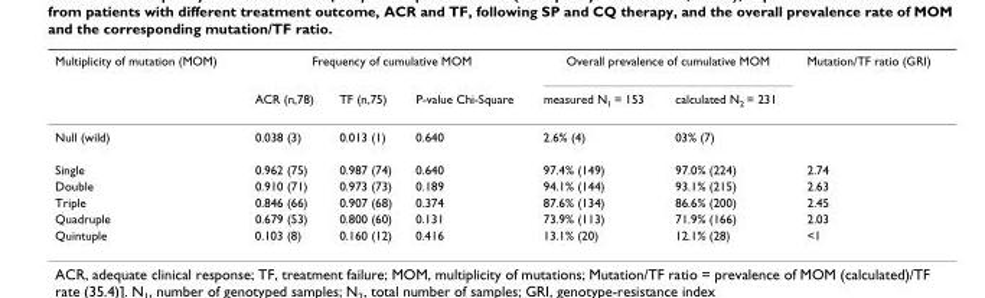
<table><thead><tr><td rowspan="2">Multiplicity of mutation (MOM)</td><td colspan="3">Frequency of cumulative MOM</td><td colspan="2">Overall prevalence of cumulative MOM</td><td rowspan="2">Mutation/TF ratio (GRI)</td></tr><tr><td>ACR (n,78)</td><td>TF (n,75)</td><td>P-value Chi-Square</td><td>measured N<sub>1</sub> = 153</td><td>calculated N<sub>2</sub> = 231</td></tr></thead><tbody><tr><td>Null (wild)</td><td>0.038 (3)</td><td>0.013 (1)</td><td>0.640</td><td>2.6% (4)</td><td>03% (7)</td><td></td></tr><tr><td>Single</td><td>0.962 (75)</td><td>0.987 (74)</td><td>0.640</td><td>97.4% (149)</td><td>97.0% (224)</td><td>2.74</td></tr><tr><td>Double</td><td>0.910 (71)</td><td>0.973 (73)</td><td>0.189</td><td>94.1% (144)</td><td>93.1% (215)</td><td>2.63</td></tr><tr><td>Triple</td><td>0.846 (66)</td><td>0.907 (68)</td><td>0.374</td><td>87.6% (134)</td><td>86.6% (200)</td><td>2.45</td></tr><tr><td>Quadruple</td><td>0.679 (53)</td><td>0.800 (60)</td><td>0.131</td><td>73.9% (113)</td><td>71.9% (166)</td><td>2.03</td></tr><tr><td>Quintuple</td><td>0.103 (8)</td><td>0.160 (12)</td><td>0.416</td><td>13.1% (20)</td><td>12.1% (28)</td><td>&lt;1</td></tr></tbody></table>